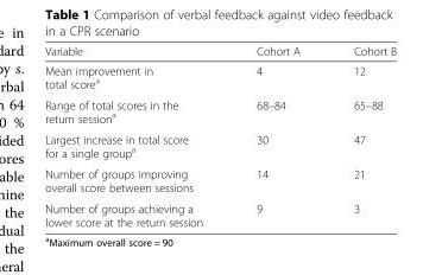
<table><thead><tr><td>Variable</td><td>Cohort A</td><td>Cohort B</td></tr></thead><tbody><tr><td>Mean improvement in total score<sup>a</sup></td><td>4</td><td>12</td></tr><tr><td>Range of total scores in the return session<sup>a</sup></td><td>68–84</td><td>65–88</td></tr><tr><td>Largest increase in total score for a single group<sup>a</sup></td><td>30</td><td>47</td></tr><tr><td>Number of groups improving overall score between sessions</td><td>14</td><td>21</td></tr><tr><td>Number of groups achieving a lower score at the return session</td><td>9</td><td>3</td></tr></tbody></table>